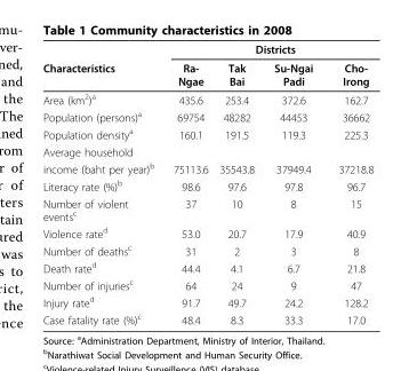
<table><thead><tr><td rowspan="2">Characteristics</td><td colspan="4">Districts</td></tr><tr><td>Ra- Ngae</td><td>Tak Bai</td><td>Su-Ngai Padi</td><td>Cho- Irong</td></tr></thead><tbody><tr><td>Area (km<sup>2</sup>)<sup>a</sup></td><td>435.6</td><td>253.4</td><td>372.6</td><td>162.7</td></tr><tr><td>Population (persons)<sup>a</sup></td><td>69754</td><td>48282</td><td>44453</td><td>36662</td></tr><tr><td>Population density<sup>a</sup></td><td>160.1</td><td>191.5</td><td>119.3</td><td>225.3</td></tr><tr><td colspan="5">Average household</td></tr><tr><td>income (baht per year)<sup>b</sup></td><td>75113.6</td><td>35543.8</td><td>37949.4</td><td>37218.8</td></tr><tr><td>Literacy rate (%)<sup>b</sup></td><td>98.6</td><td>97.6</td><td>97.8</td><td>96.7</td></tr><tr><td>Number of violent events<sup>c</sup></td><td>37</td><td>10</td><td>8</td><td>15</td></tr><tr><td>Violence rate<sup>d</sup></td><td>53.0</td><td>20.7</td><td>17.9</td><td>40.9</td></tr><tr><td>Number of deaths<sup>c</sup></td><td>31</td><td>2</td><td>3</td><td>8</td></tr><tr><td>Death rate<sup>d</sup></td><td>44.4</td><td>4.1</td><td>6.7</td><td>21.8</td></tr><tr><td>Number of injuries<sup>c</sup></td><td>64</td><td>24</td><td>9</td><td>47</td></tr><tr><td>Injury rate<sup>d</sup></td><td>91.7</td><td>49.7</td><td>24.2</td><td>128.2</td></tr><tr><td>Case fatality rate (%)<sup>c</sup></td><td>48.4</td><td>8.3</td><td>33.3</td><td>17.0</td></tr></tbody></table>